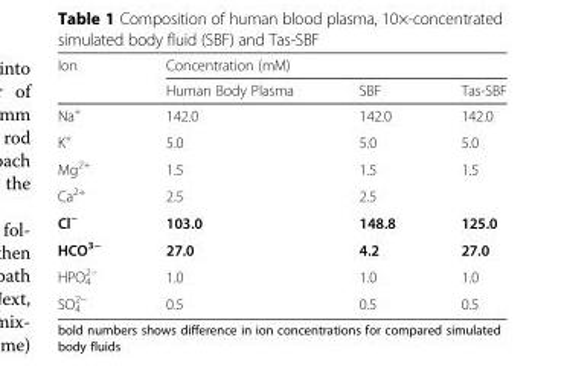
<table><thead><tr><td rowspan="2">Ion</td><td colspan="3">Concentration (mM)</td></tr><tr><td>Human Body Plasma</td><td>SBF</td><td>Tas-SBF</td></tr></thead><tbody><tr><td>Na<sup>+</sup></td><td>142.0</td><td>142.0</td><td>142.0</td></tr><tr><td>K<sup>+</sup></td><td>5.0</td><td>5.0</td><td>5.0</td></tr><tr><td>Mg<sup>2+</sup></td><td>1.5</td><td>1.5</td><td>1.5</td></tr><tr><td>Ca<sup>2+</sup></td><td>2.5</td><td>2.5</td><td></td></tr><tr><td>Cl<sup>−</sup></td><td>103.0</td><td>148.8</td><td>125.0</td></tr><tr><td>HCO<sup>3−</sup></td><td>27.0</td><td>4.2</td><td>27.0</td></tr><tr><td>HPO<sub>4</sub> <sup>2−</sup></td><td>1.0</td><td>1.0</td><td>1.0</td></tr><tr><td>SO<sub>4</sub> <sup>2−</sup></td><td>0.5</td><td>0.5</td><td>0.5</td></tr></tbody></table>